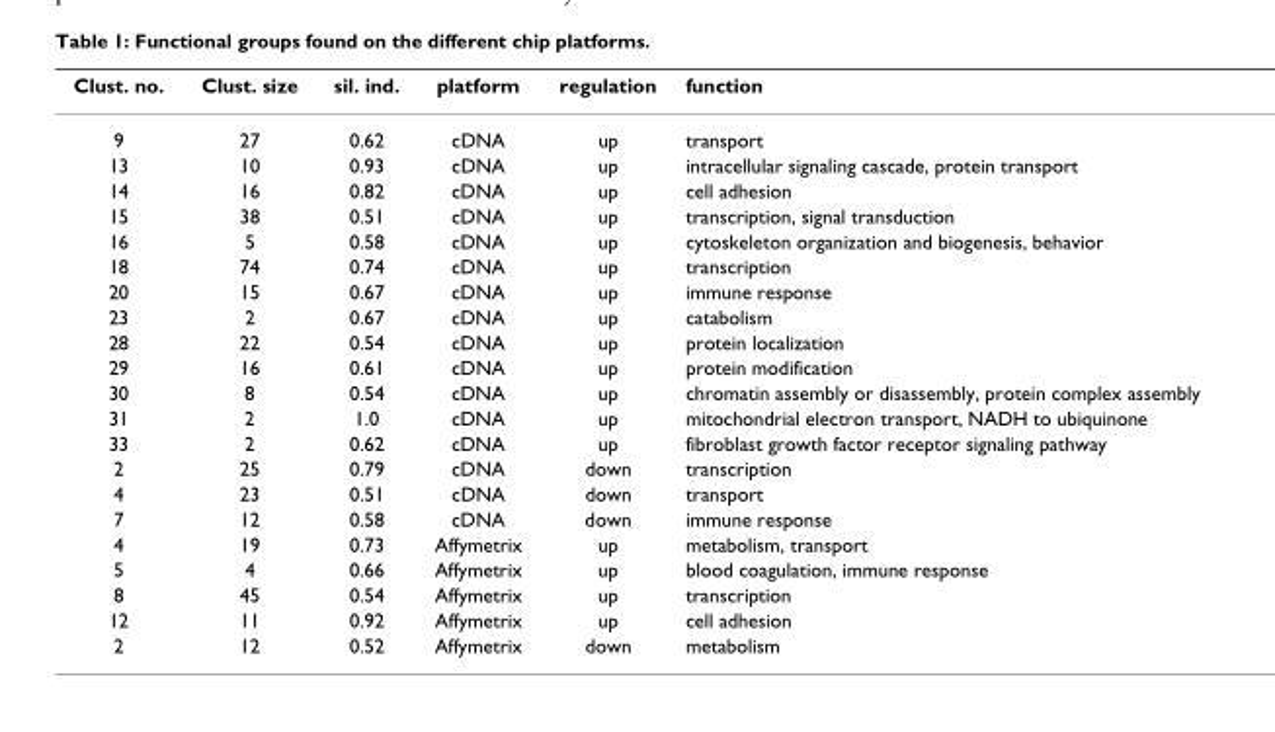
<table><thead><tr><td>Clust. no.</td><td>Clust. size</td><td>sil. ind.</td><td>platform</td><td>regulation</td><td>function</td></tr></thead><tbody><tr><td>9</td><td>27</td><td>0.62</td><td>cDNA</td><td>up</td><td>transport</td></tr><tr><td>13</td><td>10</td><td>0.93</td><td>cDNA</td><td>up</td><td>intracellular signaling cascade, protein transport</td></tr><tr><td>14</td><td>16</td><td>0.82</td><td>cDNA</td><td>up</td><td>cell adhesion</td></tr><tr><td>15</td><td>38</td><td>0.51</td><td>cDNA</td><td>up</td><td>transcription, signal transduction</td></tr><tr><td>16</td><td>5</td><td>0.58</td><td>cDNA</td><td>up</td><td>cytoskeleton organization and biogenesis, behavior</td></tr><tr><td>18</td><td>74</td><td>0.74</td><td>cDNA</td><td>up</td><td>transcription</td></tr><tr><td>20</td><td>15</td><td>0.67</td><td>cDNA</td><td>up</td><td>immune response</td></tr><tr><td>23</td><td>2</td><td>0.67</td><td>cDNA</td><td>up</td><td>catabolism</td></tr><tr><td>28</td><td>22</td><td>0.54</td><td>cDNA</td><td>up</td><td>protein localization</td></tr><tr><td>29</td><td>16</td><td>0.61</td><td>cDNA</td><td>up</td><td>protein modification</td></tr><tr><td>30</td><td>8</td><td>0.54</td><td>cDNA</td><td>up</td><td>chromatin assembly or disassembly, protein complex assembly</td></tr><tr><td>31</td><td>2</td><td>1.0</td><td>cDNA</td><td>up</td><td>mitochondrial electron transport, NADH to ubiquinone</td></tr><tr><td>33</td><td>2</td><td>0.62</td><td>cDNA</td><td>up</td><td>fibroblast growth factor receptor signaling pathway</td></tr><tr><td>2</td><td>25</td><td>0.79</td><td>cDNA</td><td>down</td><td>transcription</td></tr><tr><td>4</td><td>23</td><td>0.51</td><td>cDNA</td><td>down</td><td>transport</td></tr><tr><td>7</td><td>12</td><td>0.58</td><td>cDNA</td><td>down</td><td>immune response</td></tr><tr><td>4</td><td>19</td><td>0.73</td><td>Affymetrix</td><td>up</td><td>metabolism, transport</td></tr><tr><td>5</td><td>4</td><td>0.66</td><td>Affymetrix</td><td>up</td><td>blood coagulation, immune response</td></tr><tr><td>8</td><td>45</td><td>0.54</td><td>Affymetrix</td><td>up</td><td>transcription</td></tr><tr><td>12</td><td>11</td><td>0.92</td><td>Affymetrix</td><td>up</td><td>cell adhesion</td></tr><tr><td>2</td><td>12</td><td>0.52</td><td>Affymetrix</td><td>down</td><td>metabolism</td></tr></tbody></table>